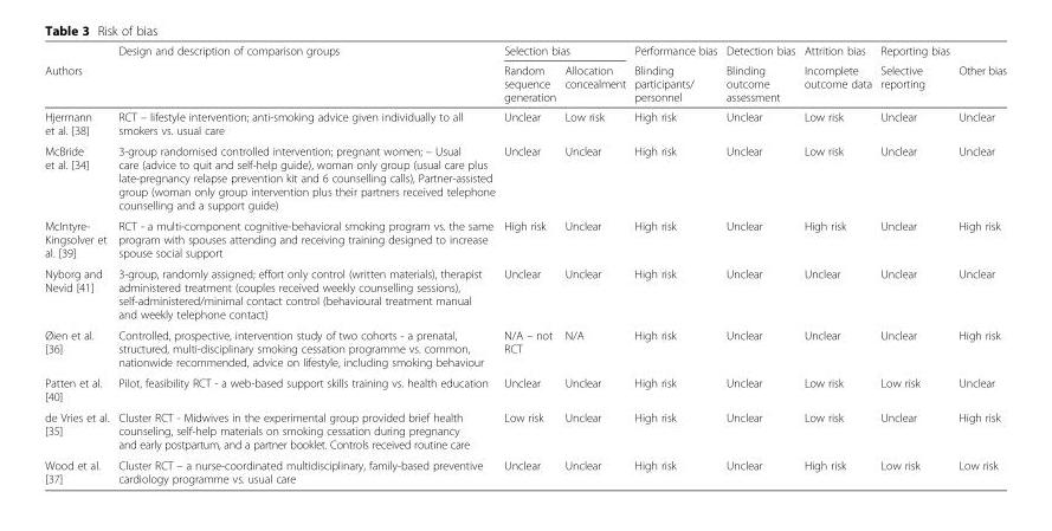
<table><thead><tr><td rowspan="2">Authors</td><td rowspan="2">Design and description of comparison groups</td><td colspan="2">Selection bias</td><td rowspan="2">Performance bias Blinding participants/ personnel</td><td rowspan="2">Detection bias Blinding outcome assessment</td><td rowspan="2">Attrition bias Incomplete outcome data</td><td rowspan="2">Reporting bias Selective reporting</td><td rowspan="2">Other bias</td></tr><tr><td>Random sequence generation</td><td>Allocation concealment</td></tr></thead><tbody><tr><td>Hjermann et al. [38]</td><td>RCT – lifestyle intervention; anti-smoking advice given individually to all smokers vs. usual care</td><td>Unclear</td><td>Low risk</td><td>High risk</td><td>Unclear</td><td>Low risk</td><td>Unclear</td><td>Unclear</td></tr><tr><td>McBride et al. [34]</td><td>3-group randomised controlled intervention; pregnant women; – Usual care (advice to quit and self-help guide), woman only group (usual care plus late-pregnancy relapse prevention kit and 6 counselling calls), Partner-assisted group (woman only group intervention plus their partners received telephone counselling and a support guide)</td><td>Unclear</td><td>Unclear</td><td>High risk</td><td>Unclear</td><td>Low risk</td><td>Unclear</td><td>Unclear</td></tr><tr><td>McIntyre- Kingsolver et al. [39]</td><td>RCT - a multi-component cognitive-behavioral smoking program vs. the same program with spouses attending and receiving training designed to increase spouse social support</td><td>High risk</td><td>Unclear</td><td>High risk</td><td>Unclear</td><td>High risk</td><td>Unclear</td><td>High risk</td></tr><tr><td>Nyborg and Nevid [41]</td><td>3-group, randomly assigned; effort only control (written materials), therapist administered treatment (couples received weekly counselling sessions), self-administered/minimal contact control (behavioural treatment manual and weekly telephone contact)</td><td>Unclear</td><td>Unclear</td><td>High risk</td><td>Unclear</td><td>Unclear</td><td>Unclear</td><td>Unclear</td></tr><tr><td>Øien et al. [36]</td><td>Controlled, prospective, intervention study of two cohorts - a prenatal, structured, multi-disciplinary smoking cessation programme vs. common, nationwide recommended, advice on lifestyle, including smoking behaviour</td><td>N/A – not RCT</td><td>N/A</td><td>High risk</td><td>Unclear</td><td>Unclear</td><td>Unclear</td><td>High risk</td></tr><tr><td>Patten et al. [40]</td><td>Pilot, feasibility RCT - a web-based support skills training vs. health education</td><td>Unclear</td><td>Unclear</td><td>High risk</td><td>Unclear</td><td>Low risk</td><td>Low risk</td><td>Unclear</td></tr><tr><td>de Vries et al. [35]</td><td>Cluster RCT - Midwives in the experimental group provided brief health counseling, self-help materials on smoking cessation during pregnancy and early postpartum, and a partner booklet. Controls received routine care</td><td>Low risk</td><td>Unclear</td><td>High risk</td><td>Unclear</td><td>Low risk</td><td>Unclear</td><td>High risk</td></tr><tr><td>Wood et al. [37]</td><td>Cluster RCT – a nurse-coordinated multidisciplinary, family-based preventive cardiology programme vs. usual care</td><td>Unclear</td><td>Unclear</td><td>High risk</td><td>Unclear</td><td>High risk</td><td>Low risk</td><td>Low risk</td></tr></tbody></table>